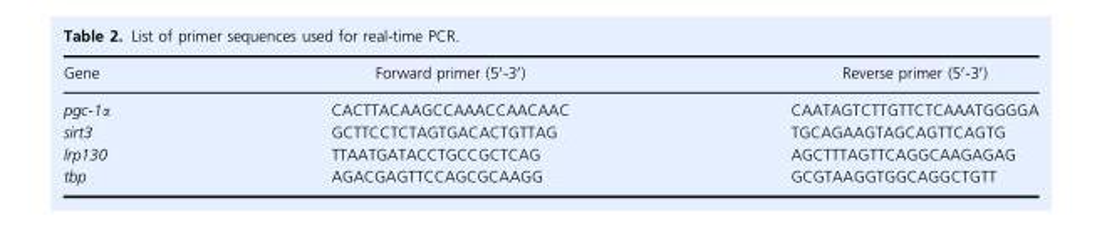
<table><thead><tr><td>Gene</td><td>Forward primer (5′-3′)</td><td>Reverse primer (5′-3′)</td></tr></thead><tbody><tr><td>pgc-1α</td><td>CACTTACAAGCCAAACCAACAAC</td><td>CAATAGTCTTGTTCTCAAATGGGGA</td></tr><tr><td>sirt3</td><td>GCTTCCTCTAGTGACACTGTTAG</td><td>TGCAGAAGTAGCAGTTCAGTG</td></tr><tr><td>lrp130</td><td>TTAATGATACCTGCCGCTCAG</td><td>AGCTTTAGTTCAGGCAAGAGAG</td></tr><tr><td>tbp</td><td>AGACGAGTTCCAGCGCAAGG</td><td>GCGTAAGGTGGCAGGCTGTT</td></tr></tbody></table>